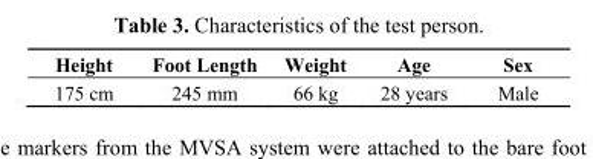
<table><thead><tr><td>Height</td><td>Foot Length</td><td>Weight</td><td>Age</td><td>Sex</td></tr></thead><tbody><tr><td>175 cm</td><td>245 mm</td><td>66 kg</td><td>28 years</td><td>Male</td></tr></tbody></table>